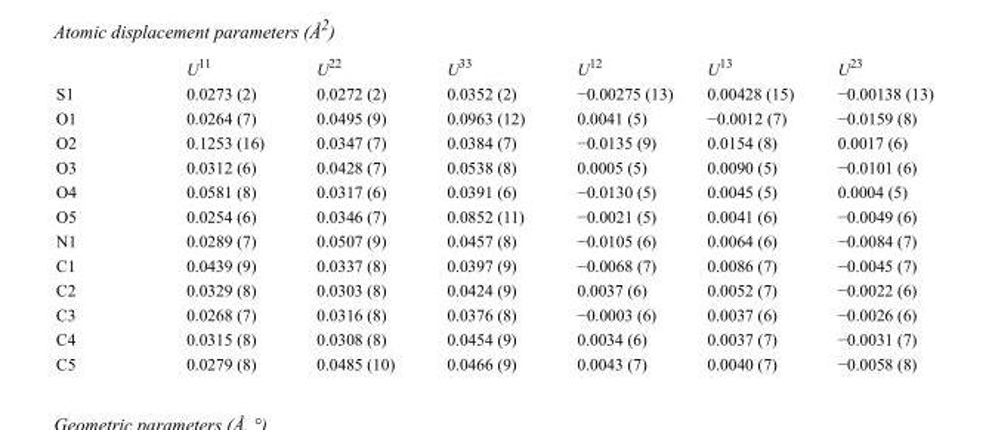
<table><thead><tr><td></td><td>U<sup>11</sup></td><td>U<sup>22</sup></td><td>U<sup>33</sup></td><td>U<sup>12</sup></td><td>U<sup>13</sup></td><td>U<sup>23</sup></td></tr></thead><tbody><tr><td>S1</td><td>0.0273 (2)</td><td>0.0272 (2)</td><td>0.0352 (2)</td><td>−0.00275 (13)</td><td>0.00428 (15)</td><td>−0.00138 (13)</td></tr><tr><td>O1</td><td>0.0264 (7)</td><td>0.0495 (9)</td><td>0.0963 (12)</td><td>0.0041 (5)</td><td>−0.0012 (7)</td><td>−0.0159 (8)</td></tr><tr><td>O2</td><td>0.1253 (16)</td><td>0.0347 (7)</td><td>0.0384 (7)</td><td>−0.0135 (9)</td><td>0.0154 (8)</td><td>0.0017 (6)</td></tr><tr><td>O3</td><td>0.0312 (6)</td><td>0.0428 (7)</td><td>0.0538 (8)</td><td>0.0005 (5)</td><td>0.0090 (5)</td><td>−0.0101 (6)</td></tr><tr><td>O4</td><td>0.0581 (8)</td><td>0.0317 (6)</td><td>0.0391 (6)</td><td>−0.0130 (5)</td><td>0.0045 (5)</td><td>0.0004 (5)</td></tr><tr><td>O5</td><td>0.0254 (6)</td><td>0.0346 (7)</td><td>0.0852 (11)</td><td>−0.0021 (5)</td><td>0.0041 (6)</td><td>−0.0049 (6)</td></tr><tr><td>N1</td><td>0.0289 (7)</td><td>0.0507 (9)</td><td>0.0457 (8)</td><td>−0.0105 (6)</td><td>0.0064 (6)</td><td>−0.0084 (7)</td></tr><tr><td>C1</td><td>0.0439 (9)</td><td>0.0337 (8)</td><td>0.0397 (9)</td><td>−0.0068 (7)</td><td>0.0086 (7)</td><td>−0.0045 (7)</td></tr><tr><td>C2</td><td>0.0329 (8)</td><td>0.0303 (8)</td><td>0.0424 (9)</td><td>0.0037 (6)</td><td>0.0052 (7)</td><td>−0.0022 (6)</td></tr><tr><td>C3</td><td>0.0268 (7)</td><td>0.0316 (8)</td><td>0.0376 (8)</td><td>−0.0003 (6)</td><td>0.0037 (6)</td><td>−0.0026 (6)</td></tr><tr><td>C4</td><td>0.0315 (8)</td><td>0.0308 (8)</td><td>0.0454 (9)</td><td>0.0034 (6)</td><td>0.0037 (7)</td><td>−0.0031 (7)</td></tr><tr><td>C5</td><td>0.0279 (8)</td><td>0.0485 (10)</td><td>0.0466 (9)</td><td>0.0043 (7)</td><td>0.0040 (7)</td><td>−0.0058 (8)</td></tr></tbody></table>